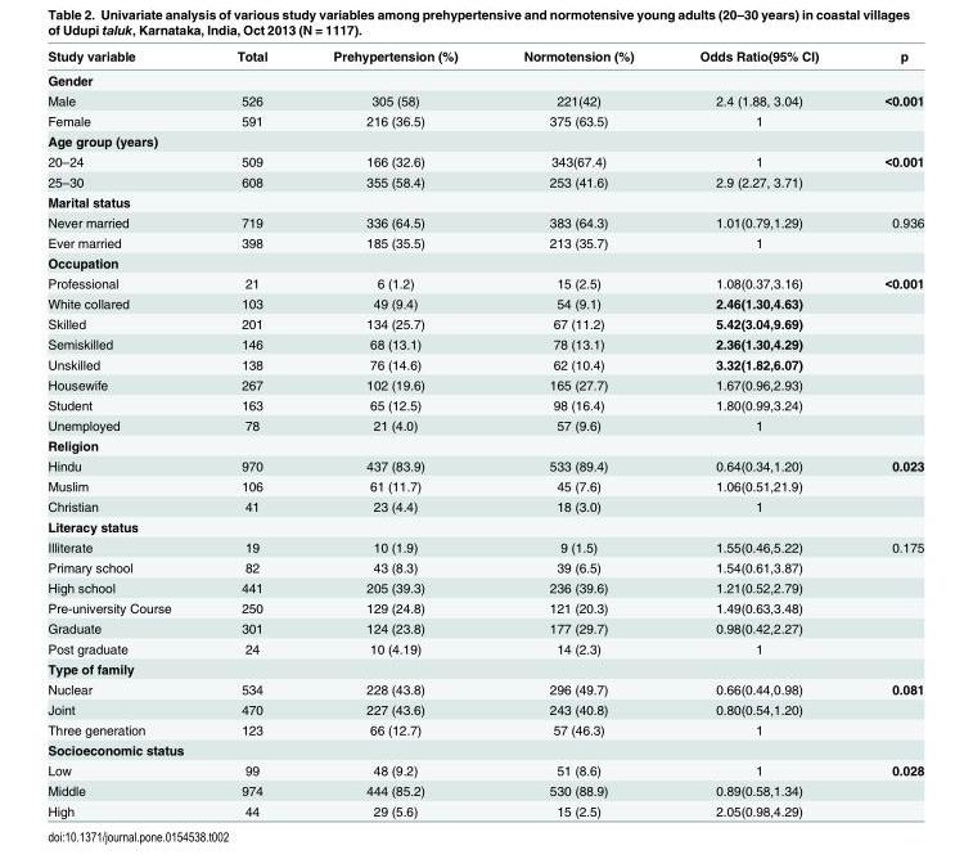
<table><thead><tr><td>Study variable</td><td>Total</td><td>Prehypertension (%)</td><td>Normotension (%)</td><td>Odds Ratio(95% CI)</td><td>p</td></tr></thead><tbody><tr><td colspan="6">Gender</td></tr><tr><td>Male</td><td>526</td><td>305 (58)</td><td>221(42)</td><td>2.4 (1.88, 3.04)</td><td>&lt;0.001</td></tr><tr><td>Female</td><td>591</td><td>216 (36.5)</td><td>375 (63.5)</td><td>1</td><td></td></tr><tr><td colspan="6">Age group (years)</td></tr><tr><td>20–24</td><td>509</td><td>166 (32.6)</td><td>343(67.4)</td><td>1</td><td>&lt;0.001</td></tr><tr><td>25–30</td><td>608</td><td>355 (58.4)</td><td>253 (41.6)</td><td>2.9 (2.27, 3.71)</td><td></td></tr><tr><td colspan="6">Marital status</td></tr><tr><td>Never married</td><td>719</td><td>336 (64.5)</td><td>383 (64.3)</td><td>1.01(0.79,1.29)</td><td>0.936</td></tr><tr><td>Ever married</td><td>398</td><td>185 (35.5)</td><td>213 (35.7)</td><td>1</td><td></td></tr><tr><td colspan="6">Occupation</td></tr><tr><td>Professional</td><td>21</td><td>6 (1.2)</td><td>15 (2.5)</td><td>1.08(0.37,3.16)</td><td>&lt;0.001</td></tr><tr><td>White collared</td><td>103</td><td>49 (9.4)</td><td>54 (9.1)</td><td>2.46(1.30,4.63)</td><td></td></tr><tr><td>Skilled</td><td>201</td><td>134 (25.7)</td><td>67 (11.2)</td><td>5.42(3.04,9.69)</td><td></td></tr><tr><td>Semiskilled</td><td>146</td><td>68 (13.1)</td><td>78 (13.1)</td><td>2.36(1.30,4.29)</td><td></td></tr><tr><td>Unskilled</td><td>138</td><td>76 (14.6)</td><td>62 (10.4)</td><td>3.32(1.82,6.07)</td><td></td></tr><tr><td>Housewife</td><td>267</td><td>102 (19.6)</td><td>165 (27.7)</td><td>1.67(0.96,2.93)</td><td></td></tr><tr><td>Student</td><td>163</td><td>65 (12.5)</td><td>98 (16.4)</td><td>1.80(0.99,3.24)</td><td></td></tr><tr><td>Unemployed</td><td>78</td><td>21 (4.0)</td><td>57 (9.6)</td><td>1</td><td></td></tr><tr><td colspan="6">Religion</td></tr><tr><td>Hindu</td><td>970</td><td>437 (83.9)</td><td>533 (89.4)</td><td>0.64(0.34,1.20)</td><td>0.023</td></tr><tr><td>Muslim</td><td>106</td><td>61 (11.7)</td><td>45 (7.6)</td><td>1.06(0.51,21.9)</td><td></td></tr><tr><td>Christian</td><td>41</td><td>23 (4.4)</td><td>18 (3.0)</td><td>1</td><td></td></tr><tr><td colspan="6">Literacy status</td></tr><tr><td>Illiterate</td><td>19</td><td>10 (1.9)</td><td>9 (1.5)</td><td>1.55(0.46,5.22)</td><td>0.175</td></tr><tr><td>Primary school</td><td>82</td><td>43 (8.3)</td><td>39 (6.5)</td><td>1.54(0.61,3.87)</td><td></td></tr><tr><td>High school</td><td>441</td><td>205 (39.3)</td><td>236 (39.6)</td><td>1.21(0.52,2.79)</td><td></td></tr><tr><td>Pre-university Course</td><td>250</td><td>129 (24.8)</td><td>121 (20.3)</td><td>1.49(0.63,3.48)</td><td></td></tr><tr><td>Graduate</td><td>301</td><td>124 (23.8)</td><td>177 (29.7)</td><td>0.98(0.42,2.27)</td><td></td></tr><tr><td>Post graduate</td><td>24</td><td>10 (4.19)</td><td>14 (2.3)</td><td>1</td><td></td></tr><tr><td colspan="6">Type of family</td></tr><tr><td>Nuclear</td><td>534</td><td>228 (43.8)</td><td>296 (49.7)</td><td>0.66(0.44,0.98)</td><td>0.081</td></tr><tr><td>Joint</td><td>470</td><td>227 (43.6)</td><td>243 (40.8)</td><td>0.80(0.54,1.20)</td><td></td></tr><tr><td>Three generation</td><td>123</td><td>66 (12.7)</td><td>57 (46.3)</td><td>1</td><td></td></tr><tr><td colspan="6">Socioeconomic status</td></tr><tr><td>Low</td><td>99</td><td>48 (9.2)</td><td>51 (8.6)</td><td>1</td><td>0.028</td></tr><tr><td>Middle</td><td>974</td><td>444 (85.2)</td><td>530 (88.9)</td><td>0.89(0.58,1.34)</td><td></td></tr><tr><td>High</td><td>44</td><td>29 (5.6)</td><td>15 (2.5)</td><td>2.05(0.98,4.29)</td><td></td></tr></tbody></table>